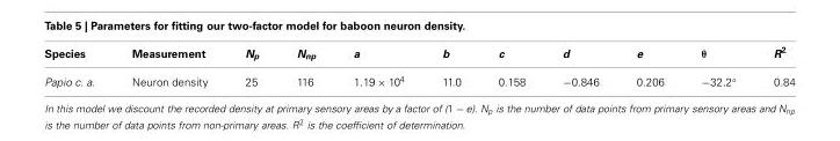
<table><thead><tr><td>Species</td><td>Measurement</td><td>N<sub>p</sub></td><td>N<sub>np</sub></td><td>a</td><td>b</td><td>c</td><td>d</td><td>e</td><td>θ</td><td>R<sup>2</sup></td></tr></thead><tbody><tr><td>Papio c. a.</td><td>Neuron density</td><td>25</td><td>116</td><td>1.19 × 10<sup>4</sup></td><td>11.0</td><td>0.158</td><td>−0.846</td><td>0.206</td><td>−32.2◦</td><td>0.84</td></tr></tbody></table>